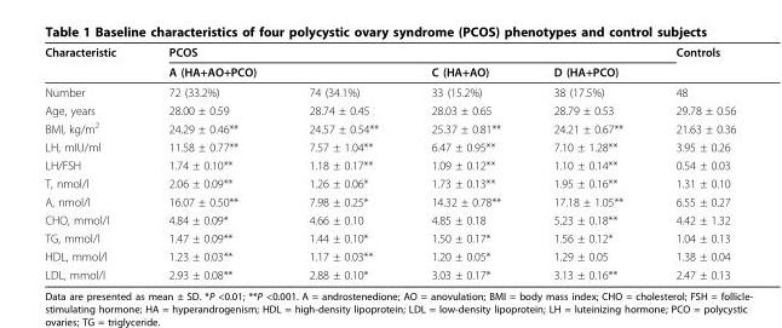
<table><thead><tr><td rowspan="2">Characteristic</td><td colspan="4">PCOS</td><td rowspan="2">Controls</td></tr><tr><td>A (HA+AO+PCO)</td><td></td><td>C (HA+AO)</td><td>D (HA+PCO)</td></tr></thead><tbody><tr><td>Number</td><td>72 (33.2%)</td><td>74 (34.1%)</td><td>33 (15.2%)</td><td>38 (17.5%)</td><td>48</td></tr><tr><td>Age, years</td><td>28.00 ± 0.59</td><td>28.74 ± 0.45</td><td>28.03 ± 0.65</td><td>28.79 ± 0.53</td><td>29.78 ± 0.56</td></tr><tr><td>BMI, kg/m<sup>2</sup></td><td>24.29 ± 0.46**</td><td>24.57 ± 0.54**</td><td>25.37 ± 0.81**</td><td>24.21 ± 0.67**</td><td>21.63 ± 0.36</td></tr><tr><td>LH, mIU/ml</td><td>11.58 ± 0.77**</td><td>7.57 ± 1.04**</td><td>6.47 ± 0.95**</td><td>7.10 ± 1.28**</td><td>3.95 ± 0.26</td></tr><tr><td>LH/FSH</td><td>1.74 ± 0.10**</td><td>1.18 ± 0.17**</td><td>1.09 ± 0.12**</td><td>1.10 ± 0.14**</td><td>0.54 ± 0.03</td></tr><tr><td>T, nmol/l</td><td>2.06 ± 0.09**</td><td>1.26 ± 0.06*</td><td>1.73 ± 0.13**</td><td>1.95 ± 0.16**</td><td>1.31 ± 0.10</td></tr><tr><td>A, nmol/l</td><td>16.07 ± 0.50**</td><td>7.98 ± 0.25*</td><td>14.32 ± 0.78**</td><td>17.18 ± 1.05**</td><td>6.55 ± 0.27</td></tr><tr><td>CHO, mmol/l</td><td>4.84 ± 0.09*</td><td>4.66 ± 0.10</td><td>4.85 ± 0.18</td><td>5.23 ± 0.18**</td><td>4.42 ± 1.32</td></tr><tr><td>TG, mmol/l</td><td>1.47 ± 0.09**</td><td>1.44 ± 0.10*</td><td>1.50 ± 0.17*</td><td>1.56 ± 0.12*</td><td>1.04 ± 0.13</td></tr><tr><td>HDL, mmol/l</td><td>1.23 ± 0.03**</td><td>1.17 ± 0.03**</td><td>1.20 ± 0.05*</td><td>1.29 ± 0.05</td><td>1.38 ± 0.04</td></tr><tr><td>LDL, mmol/l</td><td>2.93 ± 0.08**</td><td>2.88 ± 0.10*</td><td>3.03 ± 0.17*</td><td>3.13 ± 0.16**</td><td>2.47 ± 0.13</td></tr></tbody></table>